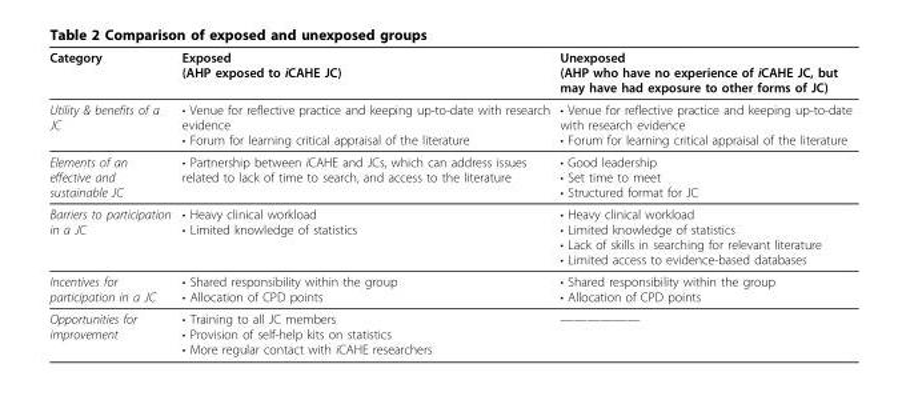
<table><thead><tr><td>Category</td><td>Exposed (AHP exposed to iCAHE JC)</td><td>Unexposed (AHP who have no experience of iCAHE JC, but may have had exposure to other forms of JC)</td></tr></thead><tbody><tr><td>Utility &amp; benefits of a JC</td><td>• Venue for reflective practice and keeping up-to-date with research evidence • Forum for learning critical appraisal of the literature</td><td>• Venue for reflective practice and keeping up-to-date with research evidence • Forum for learning critical appraisal of the literature</td></tr><tr><td>Elements of an effective and sustainable JC</td><td>• Partnership between iCAHE and JCs, which can address issues related to lack of time to search, and access to the literature</td><td>• Good leadership • Set time to meet • Structured format for JC</td></tr><tr><td>Barriers to participation in a JC</td><td>• Heavy clinical workload • Limited knowledge of statistics</td><td>• Heavy clinical workload • Limited knowledge of statistics • Lack of skills in searching for relevant literature • Limited access to evidence-based databases</td></tr><tr><td>Incentives for participation in a JC</td><td>• Shared responsibility within the group • Allocation of CPD points</td><td>• Shared responsibility within the group • Allocation of CPD points</td></tr><tr><td>Opportunities for improvement</td><td>• Training to all JC members • Provision of self-help kits on statistics • More regular contact with iCAHE researchers</td><td>——————</td></tr></tbody></table>